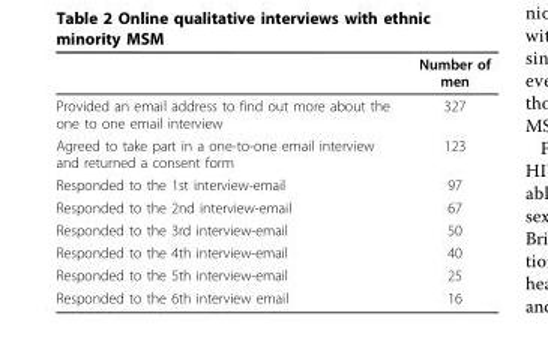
<table><thead><tr><td></td><td>Number of men</td></tr></thead><tbody><tr><td>Provided an email address to find out more about the one to one email interview</td><td>327</td></tr><tr><td>Agreed to take part in a one-to-one email interview and returned a consent form</td><td>123</td></tr><tr><td>Responded to the 1st interview-email</td><td>97</td></tr><tr><td>Responded to the 2nd interview-email</td><td>67</td></tr><tr><td>Responded to the 3rd interview-email</td><td>50</td></tr><tr><td>Responded to the 4th interview-email</td><td>40</td></tr><tr><td>Responded to the 5th interview-email</td><td>25</td></tr><tr><td>Responded to the 6th interview email</td><td>16</td></tr></tbody></table>